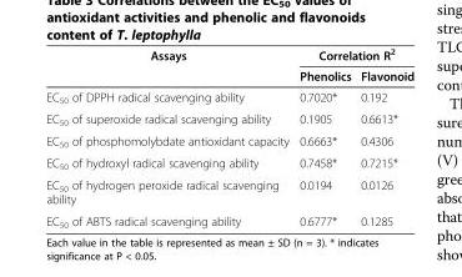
<table><thead><tr><td rowspan="2">Assays</td><td colspan="2">Correlation R<sup>2</sup></td></tr><tr><td>Phenolics</td><td>Flavonoid</td></tr></thead><tbody><tr><td>EC<sub>50</sub> of DPPH radical scavenging ability</td><td>0.7020*</td><td>0.192</td></tr><tr><td>EC<sub>50</sub> of superoxide radical scavenging ability</td><td>0.1905</td><td>0.6613*</td></tr><tr><td>EC<sub>50</sub> of phosphomolybdate antioxidant capacity</td><td>0.6663*</td><td>0.4306</td></tr><tr><td>EC<sub>50</sub> of hydroxyl radical scavenging ability</td><td>0.7458*</td><td>0.7215*</td></tr><tr><td>EC<sub>50</sub> of hydrogen peroxide radical scavenging ability</td><td>0.0194</td><td>0.0126</td></tr><tr><td>EC<sub>50</sub> of ABTS radical scavenging ability</td><td>0.6777*</td><td>0.1285</td></tr></tbody></table>